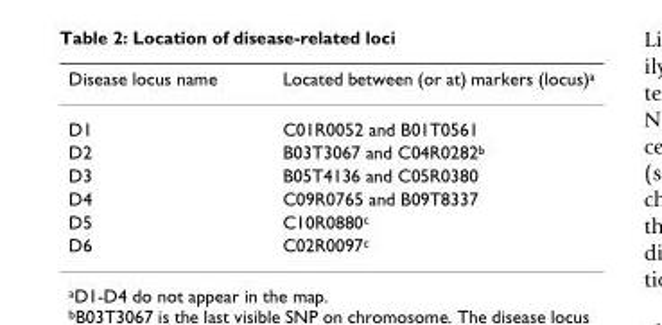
<table><thead><tr><td>Disease locus name</td><td>Located between (or at) markers (locus)a</td></tr></thead><tbody><tr><td>D1</td><td>C01R0052 and B01T0561</td></tr><tr><td>D2</td><td>B03T3067 and C04R0282b</td></tr><tr><td>D3</td><td>B05T4136 and C05R0380</td></tr><tr><td>D4</td><td>C09R0765 and B09T8337</td></tr><tr><td>D5</td><td>C10R0880c</td></tr><tr><td>D6</td><td>C02R0097c</td></tr></tbody></table>